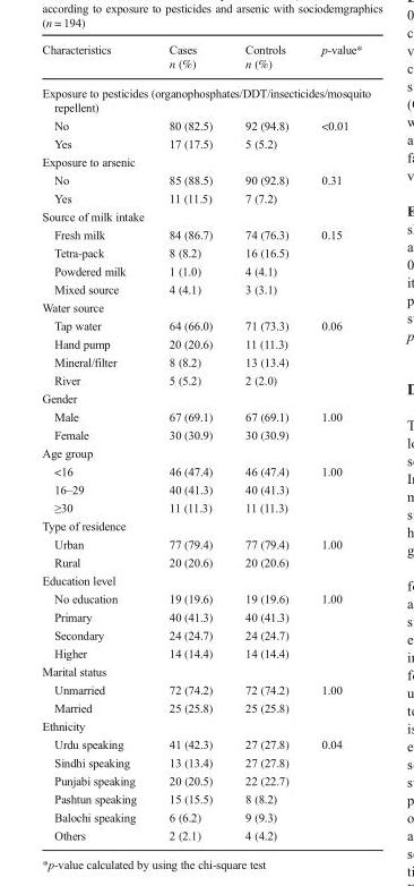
<table><thead><tr><td rowspan="2">Characteristics</td><td rowspan="2">Cases n (%)</td><td rowspan="2">Controls n (%)</td><td rowspan="2">p-value*</td></tr><tr></tr></thead><tbody><tr><td colspan="4">Exposure to pesticides (organophosphates/DDT/insecticides/mosquito repellent)</td></tr><tr><td>No</td><td>80 (82.5)</td><td>92 (94.8)</td><td>&lt;0.01</td></tr><tr><td>Yes</td><td>17 (17.5)</td><td>5 (5.2)</td><td></td></tr><tr><td colspan="4">Exposure to arsenic</td></tr><tr><td>No</td><td>85 (88.5)</td><td>90 (92.8)</td><td>0.31</td></tr><tr><td>Yes</td><td>11 (11.5)</td><td>7 (7.2)</td><td></td></tr><tr><td colspan="4">Source of milk intake</td></tr><tr><td>Fresh milk</td><td>84 (86.7)</td><td>74 (76.3)</td><td>0.15</td></tr><tr><td>Tetra-pack</td><td>8 (8.2)</td><td>16 (16.5)</td><td></td></tr><tr><td>Powdered milk</td><td>1 (1.0)</td><td>4 (4.1)</td><td></td></tr><tr><td>Mixed source</td><td>4 (4.1)</td><td>3 (3.1)</td><td></td></tr><tr><td colspan="4">Water source</td></tr><tr><td>Tap water</td><td>64 (66.0)</td><td>71 (73.3)</td><td>0.06</td></tr><tr><td>Hand pump</td><td>20 (20.6)</td><td>11 (11.3)</td><td></td></tr><tr><td>Mineral/filter</td><td>8 (8.2)</td><td>13 (13.4)</td><td></td></tr><tr><td>River</td><td>5 (5.2)</td><td>2 (2.0)</td><td></td></tr><tr><td colspan="4">Gender</td></tr><tr><td>Male</td><td>67 (69.1)</td><td>67 (69.1)</td><td>1.00</td></tr><tr><td>Female</td><td>30 (30.9)</td><td>30 (30.9)</td><td></td></tr><tr><td colspan="4">Age group</td></tr><tr><td>&lt;16</td><td>46 (47.4)</td><td>46 (47.4)</td><td>1.00</td></tr><tr><td>16–29</td><td>40 (41.3)</td><td>40 (41.3)</td><td></td></tr><tr><td>≥30</td><td>11 (11.3)</td><td>11 (11.3)</td><td></td></tr><tr><td colspan="4">Type of residence</td></tr><tr><td>Urban</td><td>77 (79.4)</td><td>77 (79.4)</td><td>1.00</td></tr><tr><td>Rural</td><td>20 (20.6)</td><td>20 (20.6)</td><td></td></tr><tr><td colspan="4">Education level</td></tr><tr><td>No education</td><td>19 (19.6)</td><td>19 (19.6)</td><td>1.00</td></tr><tr><td>Primary</td><td>40 (41.3)</td><td>40 (41.3)</td><td></td></tr><tr><td>Secondary</td><td>24 (24.7)</td><td>24 (24.7)</td><td></td></tr><tr><td>Higher</td><td>14 (14.4)</td><td>14 (14.4)</td><td></td></tr><tr><td colspan="4">Marital status</td></tr><tr><td>Unmarried</td><td>72 (74.2)</td><td>72 (74.2)</td><td>1.00</td></tr><tr><td>Married</td><td>25 (25.8)</td><td>25 (25.8)</td><td></td></tr><tr><td colspan="4">Ethnicity</td></tr><tr><td>Urdu speaking</td><td>41 (42.3)</td><td>27 (27.8)</td><td>0.04</td></tr><tr><td>Sindhi speaking</td><td>13 (13.4)</td><td>27 (27.8)</td><td></td></tr><tr><td>Punjabi speaking</td><td>20 (20.5)</td><td>22 (22.7)</td><td></td></tr><tr><td>Pashtun speaking</td><td>15 (15.5)</td><td>8 (8.2)</td><td></td></tr><tr><td>Balochi speaking</td><td>6 (6.2)</td><td>9 (9.3)</td><td></td></tr><tr><td>Others</td><td>2 (2.1)</td><td>4 (4.2)</td><td></td></tr></tbody></table>